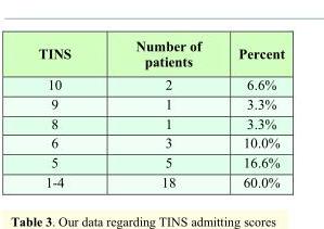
<table><thead><tr><td>TINS</td><td>Number of patients</td><td>Percent</td></tr></thead><tbody><tr><td>10</td><td>2</td><td>6.6%</td></tr><tr><td>9</td><td>1</td><td>3.3%</td></tr><tr><td>8</td><td>1</td><td>3.3%</td></tr><tr><td>6</td><td>3</td><td>10.0%</td></tr><tr><td>5</td><td>5</td><td>16.6%</td></tr><tr><td>1-4</td><td>18</td><td>60.0%</td></tr></tbody></table>